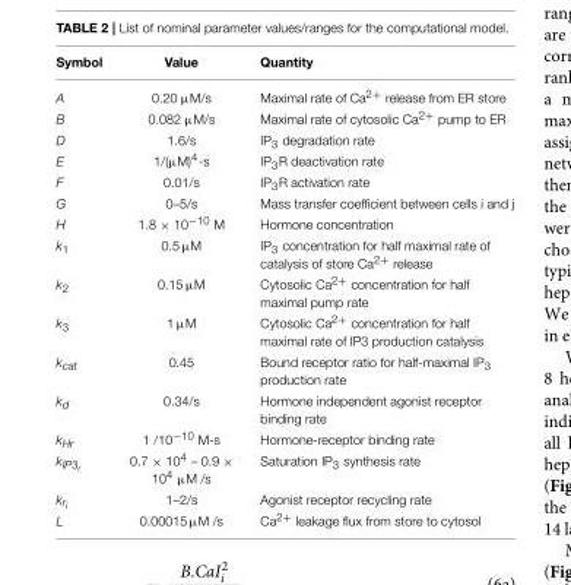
<table><thead><tr><td>Symbol</td><td>Value</td><td>Quantity</td></tr></thead><tbody><tr><td>A</td><td>0.20 µM/s</td><td>Maximal rate of Ca<sup>2+</sup> release from ER store</td></tr><tr><td>B</td><td>0.082 µM/s</td><td>Maximal rate of cytosolic Ca<sup>2+</sup> pump to ER</td></tr><tr><td>D</td><td>1.6/s</td><td>IP<sub>3</sub> degradation rate</td></tr><tr><td>E</td><td>1/(µM)<sup>4</sup>-s</td><td>IP<sub>3</sub>R deactivation rate</td></tr><tr><td>F</td><td>0.01/s</td><td>IP<sub>3</sub>R activation rate</td></tr><tr><td>G</td><td>0–5/s</td><td>Mass transfer coefficient between cells i and j</td></tr><tr><td>H</td><td>1.8 × 10<sup>−10</sup> M</td><td>Hormone concentration</td></tr><tr><td>k<sub>1</sub></td><td>0.5 µM</td><td>IP<sub>3</sub> concentration for half maximal rate of catalysis of store Ca<sup>2+</sup> release</td></tr><tr><td>k<sub>2</sub></td><td>0.15 µM</td><td>Cytosolic Ca<sup>2+</sup> concentration for half maximal pump rate</td></tr><tr><td>k<sub>3</sub></td><td>1 µM</td><td>Cytosolic Ca<sup>2+</sup> concentration for half maximal rate of IP3 production catalysis</td></tr><tr><td>kcat</td><td>0.45</td><td>Bound receptor ratio for half-maximal IP<sub>3</sub> production rate</td></tr><tr><td>kd</td><td>0.34/s</td><td>Hormone independent agonist receptor binding rate</td></tr><tr><td>kHr</td><td>1 /10<sup>−10</sup> M-s</td><td>Hormone-receptor binding rate</td></tr><tr><td>kIP3i</td><td>0.7 × 10<sup>4</sup> – 0.9 × 10<sup>4</sup> µM /s</td><td>Saturation IP<sub>3</sub> synthesis rate</td></tr><tr><td>kri</td><td>1–2/s</td><td>Agonist receptor recycling rate</td></tr><tr><td>L</td><td>0.00015 µM /s</td><td>Ca<sup>2+</sup> leakage flux from store to cytosol</td></tr></tbody></table>